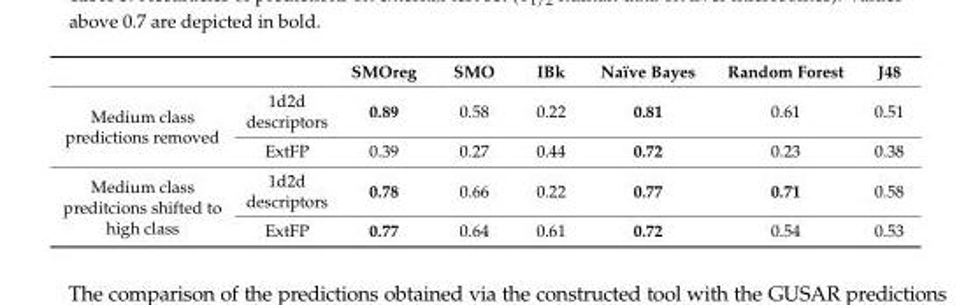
<table><thead><tr><td></td><td></td><td>SMOreg</td><td>SMO</td><td>IBk</td><td>Naïve Bayes</td><td>Random Forest</td><td>J48</td></tr></thead><tbody><tr><td rowspan="2">Medium class predictions removed</td><td>1d2d descriptors</td><td>0.89</td><td>0.58</td><td>0.22</td><td>0.81</td><td>0.61</td><td>0.51</td></tr><tr><td>ExtFP</td><td>0.39</td><td>0.27</td><td>0.44</td><td>0.72</td><td>0.23</td><td>0.38</td></tr><tr><td rowspan="2">Medium class preditcions shifted to high class</td><td>1d2d descriptors</td><td>0.78</td><td>0.66</td><td>0.22</td><td>0.77</td><td>0.71</td><td>0.58</td></tr><tr><td>ExtFP</td><td>0.77</td><td>0.64</td><td>0.61</td><td>0.72</td><td>0.54</td><td>0.53</td></tr></tbody></table>